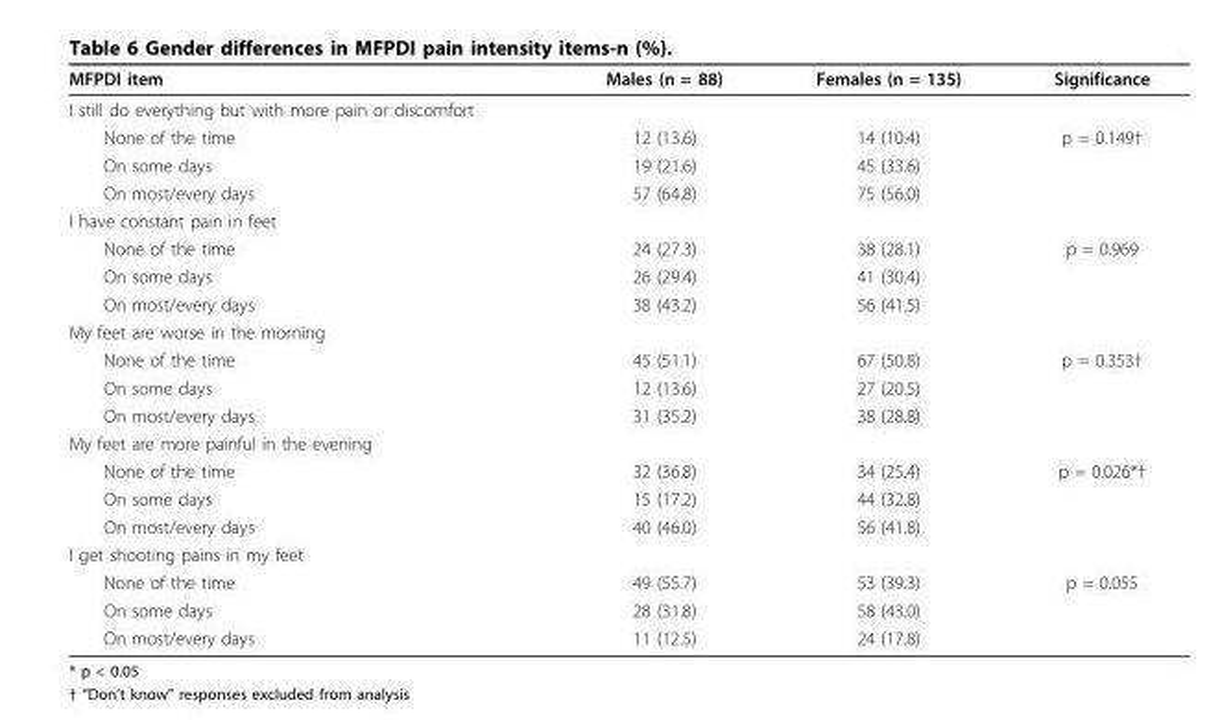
<table><thead><tr><td>MFPDI item</td><td>Males (n = 88)</td><td>Females (n = 135)</td><td>Significance</td></tr></thead><tbody><tr><td colspan="4">I still do everything but with more pain or discomfort</td></tr><tr><td>None of the time</td><td>12 (13.6)</td><td>14 (10.4)</td><td>p = 0.149†</td></tr><tr><td>On some days</td><td>19 (21.6)</td><td>45 (33.6)</td><td></td></tr><tr><td>On most/every days</td><td>57 (64.8)</td><td>75 (56.0)</td><td></td></tr><tr><td colspan="4">I have constant pain in feet</td></tr><tr><td>None of the time</td><td>24 (27.3)</td><td>38 (28.1)</td><td>p = 0.969</td></tr><tr><td>On some days</td><td>26 (29.4)</td><td>41 (30.4)</td><td></td></tr><tr><td>On most/every days</td><td>38 (43.2)</td><td>56 (41.5)</td><td></td></tr><tr><td colspan="4">My feet are worse in the morning</td></tr><tr><td>None of the time</td><td>45 (51.1)</td><td>67 (50.8)</td><td>p = 0.353†</td></tr><tr><td>On some days</td><td>12 (13.6)</td><td>27 (20.5)</td><td></td></tr><tr><td>On most/every days</td><td>31 (35.2)</td><td>38 (28.8)</td><td></td></tr><tr><td colspan="4">My feet are more painful in the evening</td></tr><tr><td>None of the time</td><td>32 (36.8)</td><td>34 (25.4)</td><td>p = 0.026*†</td></tr><tr><td>On some days</td><td>15 (17.2)</td><td>44 (32.8)</td><td></td></tr><tr><td>On most/every days</td><td>40 (46.0)</td><td>56 (41.8)</td><td></td></tr><tr><td colspan="4">I get shooting pains in my feet</td></tr><tr><td>None of the time</td><td>49 (55.7)</td><td>53 (39.3)</td><td>p = 0.055</td></tr><tr><td>On some days</td><td>28 (31.8)</td><td>58 (43.0)</td><td></td></tr><tr><td>On most/every days</td><td>11 (12.5)</td><td>24 (17.8)</td><td></td></tr></tbody></table>